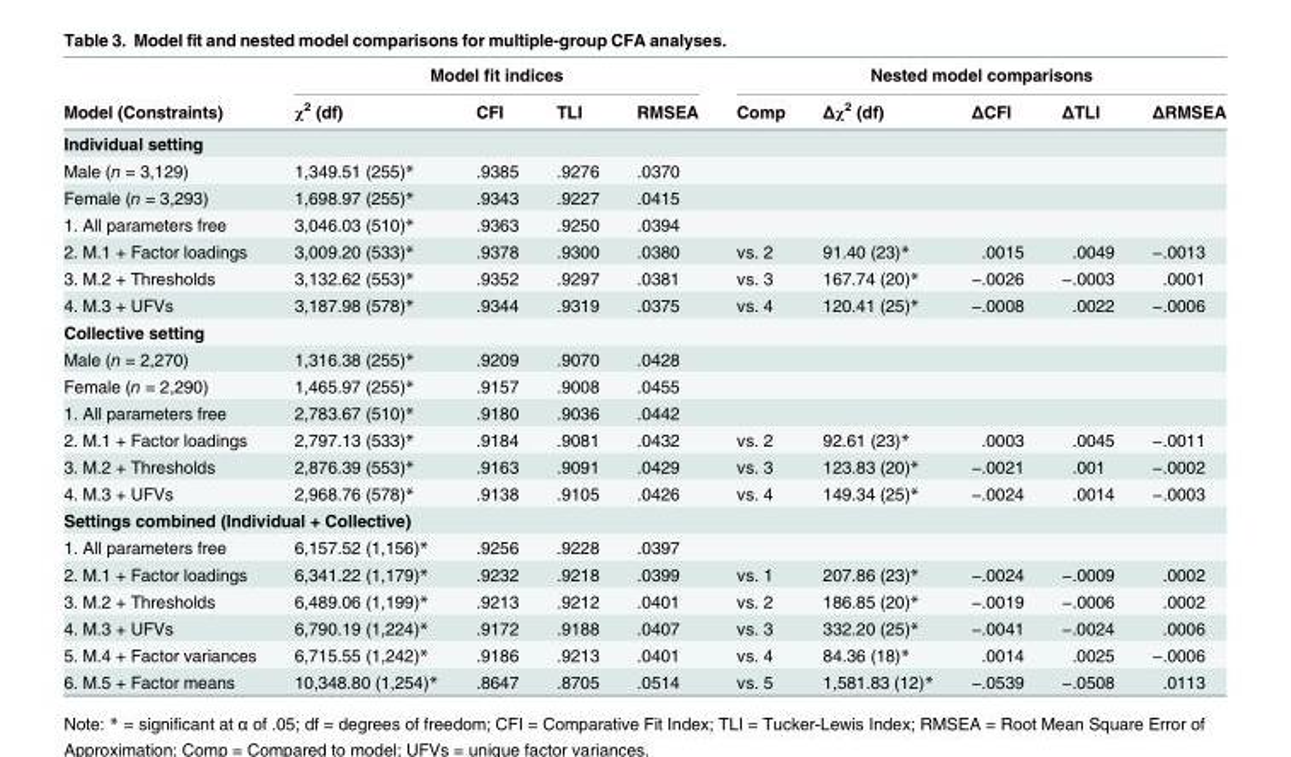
<table><thead><tr><td rowspan="2">Model (Constraints)</td><td colspan="4">Model fit indices</td><td colspan="5">Nested model comparisons</td></tr><tr><td>χ<sup>2</sup> (df)</td><td>CFI</td><td>TLI</td><td>RMSEA</td><td>Comp</td><td>Δχ<sup>2</sup> (df)</td><td>ΔCFI</td><td>ΔTLI</td><td>ΔRMSEA</td></tr></thead><tbody><tr><td colspan="10">Individual setting</td></tr><tr><td>Male (n = 3,129)</td><td>1,349.51 (255)*</td><td>.9385</td><td>.9276</td><td>.0370</td><td></td><td></td><td></td><td></td><td></td></tr><tr><td>Female (n = 3,293)</td><td>1,698.97 (255)*</td><td>.9343</td><td>.9227</td><td>.0415</td><td></td><td></td><td></td><td></td><td></td></tr><tr><td>1. All parameters free</td><td>3,046.03 (510)*</td><td>.9363</td><td>.9250</td><td>.0394</td><td></td><td></td><td></td><td></td><td></td></tr><tr><td>2. M.1 + Factor loadings</td><td>3,009.20 (533)*</td><td>.9378</td><td>.9300</td><td>.0380</td><td>vs. 2</td><td>91.40 (23)*</td><td>.0015</td><td>.0049</td><td>−.0013</td></tr><tr><td>3. M.2 + Thresholds</td><td>3,132.62 (553)*</td><td>.9352</td><td>.9297</td><td>.0381</td><td>vs. 3</td><td>167.74 (20)*</td><td>−.0026</td><td>−.0003</td><td>.0001</td></tr><tr><td>4. M.3 + UFVs</td><td>3,187.98 (578)*</td><td>.9344</td><td>.9319</td><td>.0375</td><td>vs. 4</td><td>120.41 (25)*</td><td>−.0008</td><td>.0022</td><td>−.0006</td></tr><tr><td colspan="10">Collective setting</td></tr><tr><td>Male (n = 2,270)</td><td>1,316.38 (255)*</td><td>.9209</td><td>.9070</td><td>.0428</td><td></td><td></td><td></td><td></td><td></td></tr><tr><td>Female (n = 2,290)</td><td>1,465.97 (255)*</td><td>.9157</td><td>.9008</td><td>.0455</td><td></td><td></td><td></td><td></td><td></td></tr><tr><td>1. All parameters free</td><td>2,783.67 (510)*</td><td>.9180</td><td>.9036</td><td>.0442</td><td></td><td></td><td></td><td></td><td></td></tr><tr><td>2. M.1 + Factor loadings</td><td>2,797.13 (533)*</td><td>.9184</td><td>.9081</td><td>.0432</td><td>vs. 2</td><td>92.61 (23)*</td><td>.0003</td><td>.0045</td><td>−.0011</td></tr><tr><td>3. M.2 + Thresholds</td><td>2,876.39 (553)*</td><td>.9163</td><td>.9091</td><td>.0429</td><td>vs. 3</td><td>123.83 (20)*</td><td>−.0021</td><td>.001</td><td>−.0002</td></tr><tr><td>4. M.3 + UFVs</td><td>2,968.76 (578)*</td><td>.9138</td><td>.9105</td><td>.0426</td><td>vs. 4</td><td>149.34 (25)*</td><td>−.0024</td><td>.0014</td><td>−.0003</td></tr><tr><td colspan="10">Settings combined (Individual + Collective)</td></tr><tr><td>1. All parameters free</td><td>6,157.52 (1,156)*</td><td>.9256</td><td>.9228</td><td>.0397</td><td></td><td></td><td></td><td></td><td></td></tr><tr><td>2. M.1 + Factor loadings</td><td>6,341.22 (1,179)*</td><td>.9232</td><td>.9218</td><td>.0399</td><td>vs. 1</td><td>207.86 (23)*</td><td>−.0024</td><td>−.0009</td><td>.0002</td></tr><tr><td>3. M.2 + Thresholds</td><td>6,489.06 (1,199)*</td><td>.9213</td><td>.9212</td><td>.0401</td><td>vs. 2</td><td>186.85 (20)*</td><td>−.0019</td><td>−.0006</td><td>.0002</td></tr><tr><td>4. M.3 + UFVs</td><td>6,790.19 (1,224)*</td><td>.9172</td><td>.9188</td><td>.0407</td><td>vs. 3</td><td>332.20 (25)*</td><td>−.0041</td><td>−.0024</td><td>.0006</td></tr><tr><td>5. M.4 + Factor variances</td><td>6,715.55 (1,242)*</td><td>.9186</td><td>.9213</td><td>.0401</td><td>vs. 4</td><td>84.36 (18)*</td><td>.0014</td><td>.0025</td><td>−.0006</td></tr><tr><td>6. M.5 + Factor means</td><td>10,348.80 (1,254)*</td><td>.8647</td><td>.8705</td><td>.0514</td><td>vs. 5</td><td>1,581.83 (12)*</td><td>−.0539</td><td>−.0508</td><td>.0113</td></tr></tbody></table>